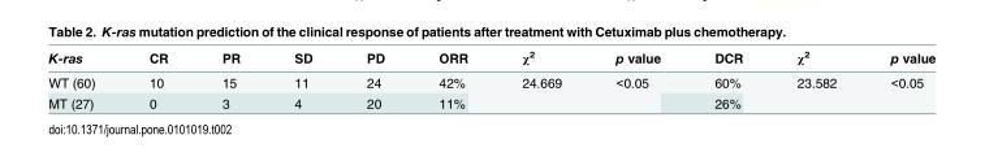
<table><thead><tr><td>K-ras</td><td>CR</td><td>PR</td><td>SD</td><td>PD</td><td>ORR</td><td>χ<sup>2</sup></td><td>p value</td><td>DCR</td><td>χ<sup>2</sup></td><td>p value</td></tr></thead><tbody><tr><td>WT (60)</td><td>10</td><td>15</td><td>11</td><td>24</td><td>42%</td><td rowspan="2">24.669</td><td rowspan="2">&lt;0.05</td><td>60%</td><td rowspan="2">23.582</td><td rowspan="2">&lt;0.05</td></tr><tr><td>MT (27)</td><td>0</td><td>3</td><td>4</td><td>20</td><td>11%</td><td>26%</td></tr></tbody></table>